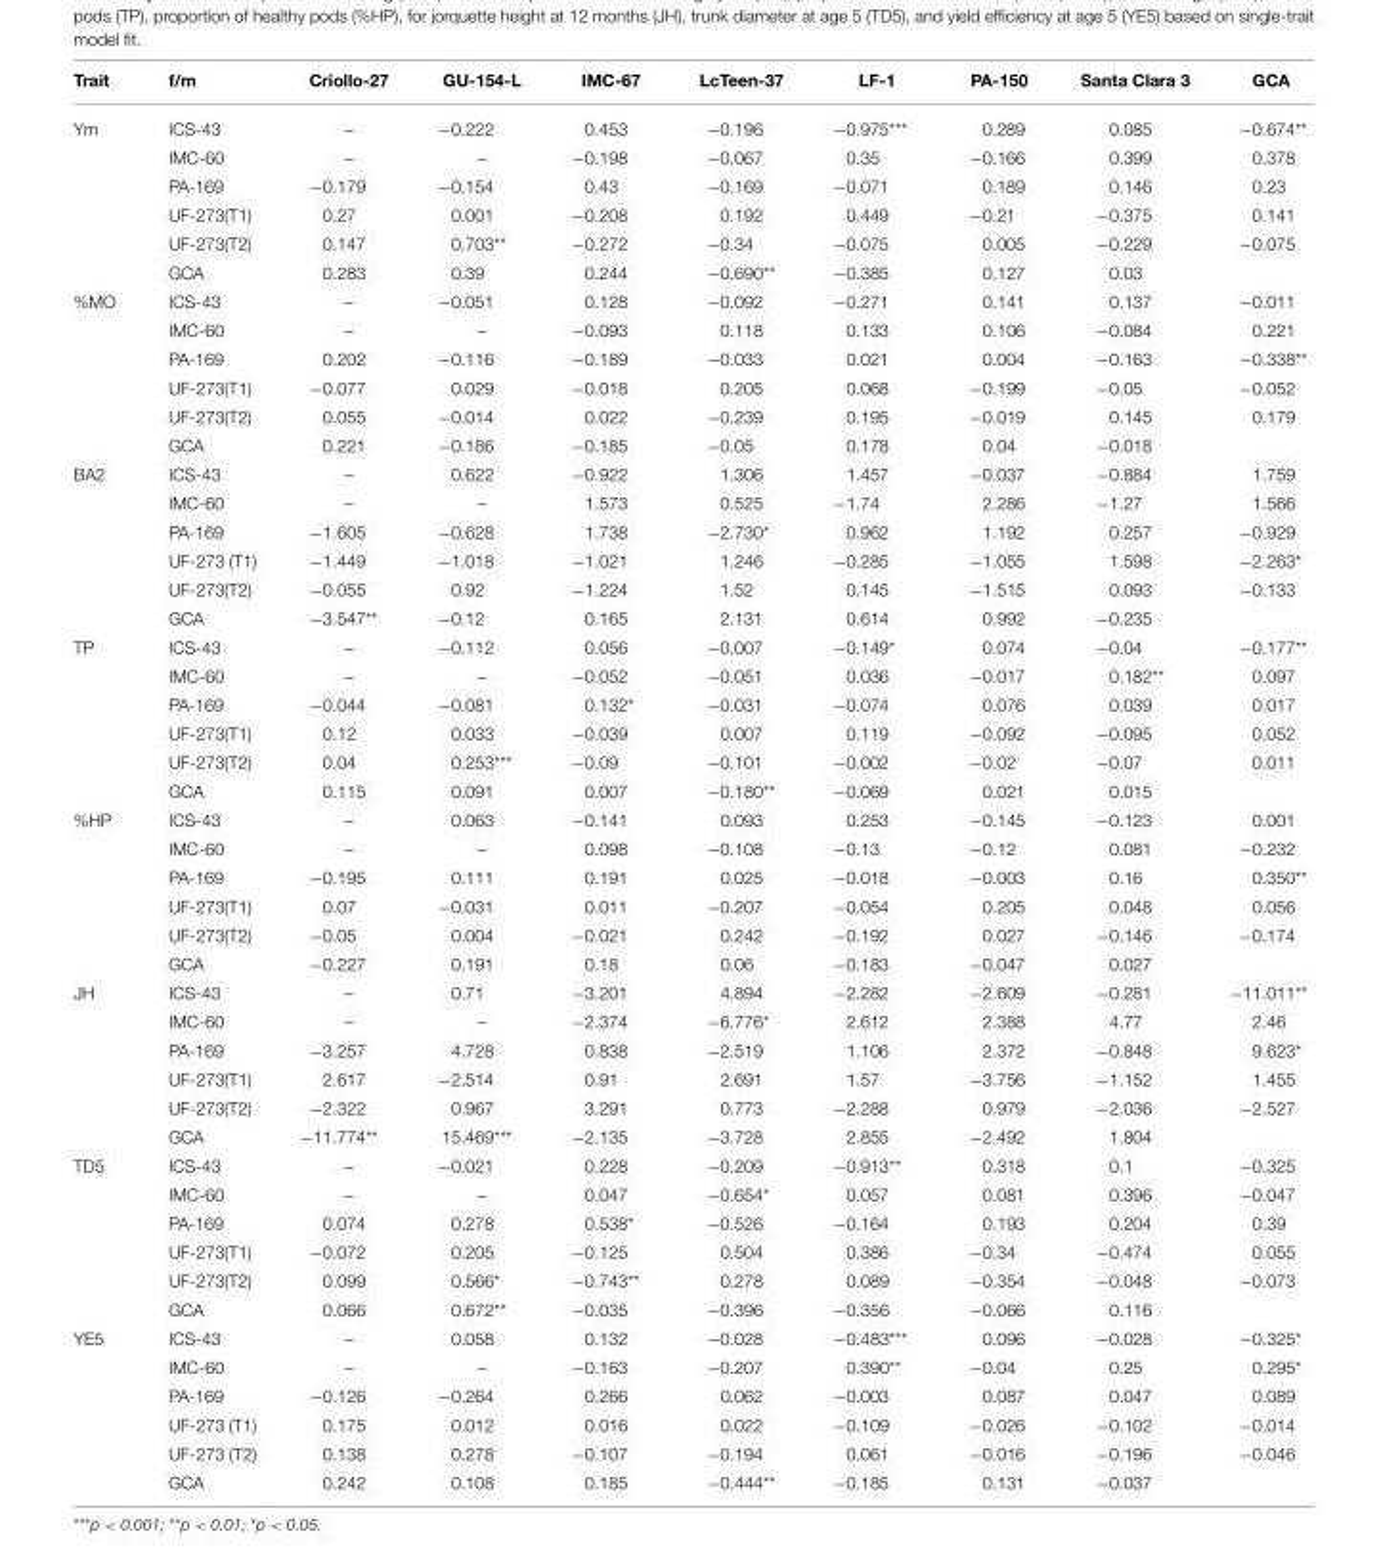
<table><thead><tr><td>Trait</td><td>f/m</td><td>Criollo-27</td><td>GU-154-L</td><td>IMC-67</td><td>LcTeen-37</td><td>LF-1</td><td>PA-150</td><td>Santa Clara 3</td><td>GCA</td></tr></thead><tbody><tr><td rowspan="6">Ym</td><td>ICS-43</td><td>–</td><td>−0.222</td><td>0.453</td><td>−0.196</td><td>−0.975***</td><td>0.289</td><td>0.085</td><td>−0.674**</td></tr><tr><td>IMC-60</td><td>–</td><td>–</td><td>−0.198</td><td>−0.067</td><td>0.35</td><td>−0.166</td><td>0.399</td><td>0.378</td></tr><tr><td>PA-169</td><td>−0.179</td><td>−0.154</td><td>0.43</td><td>−0.169</td><td>−0.071</td><td>0.189</td><td>0.146</td><td>0.23</td></tr><tr><td>UF-273(T1)</td><td>0.27</td><td>0.001</td><td>−0.208</td><td>0.192</td><td>0.449</td><td>−0.21</td><td>−0.375</td><td>0.141</td></tr><tr><td>UF-273(T2)</td><td>0.147</td><td>0.703**</td><td>−0.272</td><td>−0.34</td><td>−0.075</td><td>0.005</td><td>−0.229</td><td>−0.075</td></tr><tr><td>GCA</td><td>0.283</td><td>0.39</td><td>0.244</td><td>−0.690**</td><td>−0.385</td><td>0.127</td><td>0.03</td><td></td></tr><tr><td rowspan="6">%MO</td><td>ICS-43</td><td>–</td><td>−0.051</td><td>0.128</td><td>−0.092</td><td>−0.271</td><td>0.141</td><td>0.137</td><td>−0.011</td></tr><tr><td>IMC-60</td><td>–</td><td>–</td><td>−0.093</td><td>0.118</td><td>0.133</td><td>0.106</td><td>−0.084</td><td>0.221</td></tr><tr><td>PA-169</td><td>0.202</td><td>−0.116</td><td>−0.189</td><td>−0.033</td><td>0.021</td><td>0.004</td><td>−0.163</td><td>−0.338**</td></tr><tr><td>UF-273(T1)</td><td>−0.077</td><td>0.029</td><td>−0.018</td><td>0.205</td><td>0.068</td><td>−0.199</td><td>−0.05</td><td>−0.052</td></tr><tr><td>UF-273(T2)</td><td>0.055</td><td>−0.014</td><td>0.022</td><td>−0.239</td><td>0.195</td><td>−0.019</td><td>0.145</td><td>0.179</td></tr><tr><td>GCA</td><td>0.221</td><td>−0.186</td><td>−0.185</td><td>−0.05</td><td>0.178</td><td>0.04</td><td>−0.018</td><td></td></tr><tr><td rowspan="6">BA2</td><td>ICS-43</td><td>–</td><td>0.622</td><td>−0.922</td><td>1.306</td><td>1.457</td><td>−0.037</td><td>−0.884</td><td>1.759</td></tr><tr><td>IMC-60</td><td>–</td><td>–</td><td>1.573</td><td>0.525</td><td>−1.74</td><td>2.286</td><td>−1.27</td><td>1.566</td></tr><tr><td>PA-169</td><td>−1.605</td><td>−0.628</td><td>1.738</td><td>−2.730*</td><td>0.962</td><td>1.192</td><td>0.257</td><td>−0.929</td></tr><tr><td>UF-273 (T1)</td><td>−1.449</td><td>−1.018</td><td>−1.021</td><td>1.246</td><td>−0.285</td><td>−1.055</td><td>1.598</td><td>−2.263*</td></tr><tr><td>UF-273(T2)</td><td>−0.055</td><td>0.92</td><td>−1.224</td><td>1.52</td><td>0.145</td><td>−1.515</td><td>0.093</td><td>−0.133</td></tr><tr><td>GCA</td><td>−3.547**</td><td>−0.12</td><td>0.165</td><td>2.131</td><td>0.614</td><td>0.992</td><td>−0.235</td><td></td></tr><tr><td rowspan="6">TP</td><td>ICS-43</td><td>–</td><td>−0.112</td><td>0.056</td><td>−0.007</td><td>−0.149*</td><td>0.074</td><td>−0.04</td><td>−0.177**</td></tr><tr><td>IMC-60</td><td>–</td><td>–</td><td>−0.052</td><td>−0.051</td><td>0.036</td><td>−0.017</td><td>0.182**</td><td>0.097</td></tr><tr><td>PA-169</td><td>−0.044</td><td>−0.081</td><td>0.132*</td><td>−0.031</td><td>−0.074</td><td>0.076</td><td>0.039</td><td>0.017</td></tr><tr><td>UF-273(T1)</td><td>0.12</td><td>0.033</td><td>−0.039</td><td>0.007</td><td>0.119</td><td>−0.092</td><td>−0.095</td><td>0.052</td></tr><tr><td>UF-273(T2)</td><td>0.04</td><td>0.253***</td><td>−0.09</td><td>−0.101</td><td>−0.002</td><td>−0.02</td><td>−0.07</td><td>0.011</td></tr><tr><td>GCA</td><td>0.115</td><td>0.091</td><td>0.007</td><td>−0.180**</td><td>−0.069</td><td>0.021</td><td>0.015</td><td></td></tr><tr><td rowspan="6">%HP</td><td>ICS-43</td><td>–</td><td>0.063</td><td>−0.141</td><td>0.093</td><td>0.253</td><td>−0.145</td><td>−0.123</td><td>0.001</td></tr><tr><td>IMC-60</td><td>–</td><td>–</td><td>0.098</td><td>−0.108</td><td>−0.13</td><td>−0.12</td><td>0.081</td><td>−0.232</td></tr><tr><td>PA-169</td><td>−0.195</td><td>0.111</td><td>0.191</td><td>0.025</td><td>−0.018</td><td>−0.003</td><td>0.16</td><td>0.350**</td></tr><tr><td>UF-273(T1)</td><td>0.07</td><td>−0.031</td><td>0.011</td><td>−0.207</td><td>−0.054</td><td>0.205</td><td>0.048</td><td>0.056</td></tr><tr><td>UF-273(T2)</td><td>−0.05</td><td>0.004</td><td>−0.021</td><td>0.242</td><td>−0.192</td><td>0.027</td><td>−0.146</td><td>−0.174</td></tr><tr><td>GCA</td><td>−0.227</td><td>0.191</td><td>0.18</td><td>0.06</td><td>−0.183</td><td>−0.047</td><td>0.027</td><td></td></tr><tr><td rowspan="6">JH</td><td>ICS-43</td><td>–</td><td>0.71</td><td>−3.201</td><td>4.894</td><td>−2.282</td><td>−2.609</td><td>−0.281</td><td>−11.011**</td></tr><tr><td>IMC-60</td><td>–</td><td>–</td><td>−2.374</td><td>−6.776*</td><td>2.612</td><td>2.388</td><td>4.77</td><td>2.46</td></tr><tr><td>PA-169</td><td>−3.257</td><td>4.728</td><td>0.838</td><td>−2.519</td><td>1.106</td><td>2.372</td><td>−0.848</td><td>9.623*</td></tr><tr><td>UF-273(T1)</td><td>2.617</td><td>−2.514</td><td>0.91</td><td>2.691</td><td>1.57</td><td>−3.756</td><td>−1.152</td><td>1.455</td></tr><tr><td>UF-273(T2)</td><td>−2.322</td><td>0.967</td><td>3.291</td><td>0.773</td><td>−2.288</td><td>0.979</td><td>−2.036</td><td>−2.527</td></tr><tr><td>GCA</td><td>−11.774**</td><td>15.469***</td><td>−2.135</td><td>−3.728</td><td>2.855</td><td>−2.492</td><td>1.804</td><td></td></tr><tr><td rowspan="6">TD5</td><td>ICS-43</td><td>–</td><td>−0.021</td><td>0.228</td><td>−0.209</td><td>−0.913**</td><td>0.318</td><td>0.1</td><td>−0.325</td></tr><tr><td>IMC-60</td><td>–</td><td>–</td><td>0.047</td><td>−0.654*</td><td>0.057</td><td>0.081</td><td>0.396</td><td>−0.047</td></tr><tr><td>PA-169</td><td>0.074</td><td>0.278</td><td>0.538*</td><td>−0.526</td><td>−0.164</td><td>0.193</td><td>0.204</td><td>0.39</td></tr><tr><td>UF-273(T1)</td><td>−0.072</td><td>0.205</td><td>−0.125</td><td>0.504</td><td>0.386</td><td>−0.34</td><td>−0.474</td><td>0.055</td></tr><tr><td>UF-273(T2)</td><td>0.099</td><td>0.566*</td><td>−0.743**</td><td>0.278</td><td>0.089</td><td>−0.354</td><td>−0.048</td><td>−0.073</td></tr><tr><td>GCA</td><td>0.066</td><td>0.672**</td><td>−0.035</td><td>−0.396</td><td>−0.356</td><td>−0.066</td><td>0.116</td><td></td></tr><tr><td rowspan="6">YE5</td><td>ICS-43</td><td>–</td><td>0.058</td><td>0.132</td><td>−0.028</td><td>−0.483***</td><td>0.096</td><td>−0.028</td><td>−0.325*</td></tr><tr><td>IMC-60</td><td>–</td><td>–</td><td>−0.163</td><td>−0.207</td><td>0.390**</td><td>−0.04</td><td>0.25</td><td>0.295*</td></tr><tr><td>PA-169</td><td>−0.126</td><td>−0.264</td><td>0.266</td><td>0.062</td><td>−0.003</td><td>0.087</td><td>0.047</td><td>0.089</td></tr><tr><td>UF-273 (T1)</td><td>0.175</td><td>0.012</td><td>0.016</td><td>0.022</td><td>−0.109</td><td>−0.026</td><td>−0.102</td><td>−0.014</td></tr><tr><td>UF-273 (T2)</td><td>0.138</td><td>0.278</td><td>−0.107</td><td>−0.194</td><td>0.061</td><td>−0.016</td><td>−0.196</td><td>−0.046</td></tr><tr><td>GCA</td><td>0.242</td><td>0.108</td><td>0.185</td><td>−0.444**</td><td>−0.185</td><td>0.131</td><td>−0.037</td><td></td></tr></tbody></table>